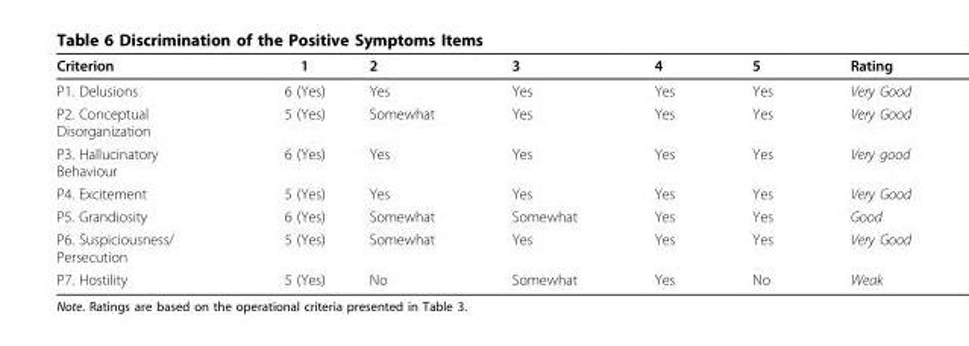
<table><thead><tr><td>Criterion</td><td>1</td><td>2</td><td>3</td><td>4</td><td>5</td><td>Rating</td></tr></thead><tbody><tr><td>P1. Delusions</td><td>6 (Yes)</td><td>Yes</td><td>Yes</td><td>Yes</td><td>Yes</td><td>Very Good</td></tr><tr><td>P2. Conceptual Disorganization</td><td>5 (Yes)</td><td>Somewhat</td><td>Yes</td><td>Yes</td><td>Yes</td><td>Very Good</td></tr><tr><td>P3. Hallucinatory Behaviour</td><td>6 (Yes)</td><td>Yes</td><td>Yes</td><td>Yes</td><td>Yes</td><td>Very good</td></tr><tr><td>P4. Excitement</td><td>5 (Yes)</td><td>Yes</td><td>Yes</td><td>Yes</td><td>Yes</td><td>Very Good</td></tr><tr><td>P5. Grandiosity</td><td>6 (Yes)</td><td>Somewhat</td><td>Somewhat</td><td>Yes</td><td>Yes</td><td>Good</td></tr><tr><td>P6. Suspiciousness/ Persecution</td><td>5 (Yes)</td><td>Somewhat</td><td>Yes</td><td>Yes</td><td>Yes</td><td>Very Good</td></tr><tr><td>P7. Hostility</td><td>5 (Yes)</td><td>No</td><td>Somewhat</td><td>Yes</td><td>No</td><td>Weak</td></tr></tbody></table>